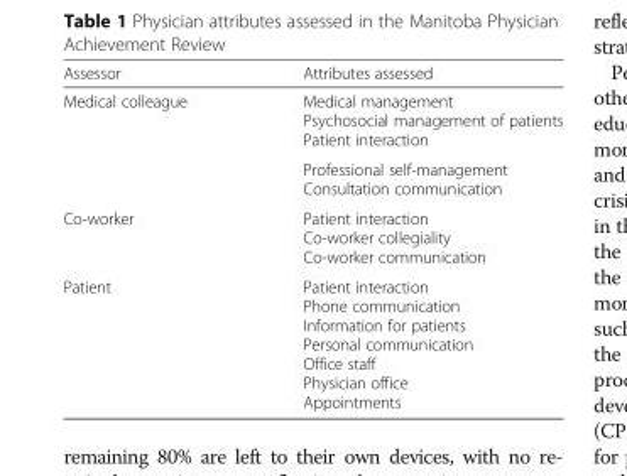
<table><thead><tr><td>Assessor</td><td>Attributes assessed</td></tr></thead><tbody><tr><td rowspan="2">Medical colleague</td><td>Medical management Psychosocial management of patients Patient interaction</td></tr><tr><td>Professional self-management Consultation communication</td></tr><tr><td>Co-worker</td><td>Patient interaction Co-worker collegiality Co-worker communication</td></tr><tr><td>Patient</td><td>Patient interaction Phone communication Information for patients Personal communication Office staff Physician office Appointments</td></tr></tbody></table>